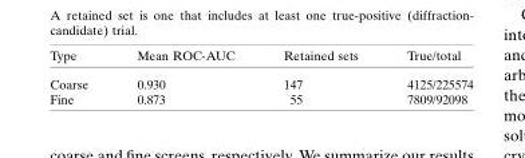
<table><thead><tr><td>Type</td><td>Mean ROC-AUC</td><td>Retained sets</td><td>True/total</td></tr></thead><tbody><tr><td>Coarse</td><td>0.930</td><td>147</td><td>4125/225574</td></tr><tr><td>Fine</td><td>0.873</td><td>55</td><td>7809/92098</td></tr></tbody></table>